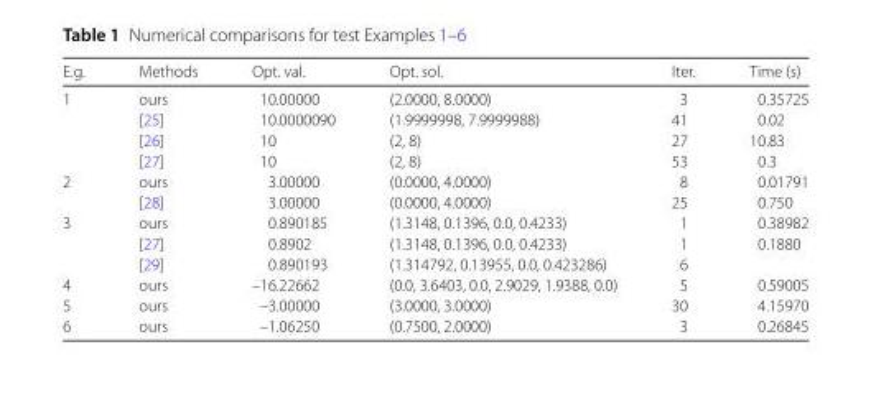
<table><thead><tr><td>E.g.</td><td>Methods</td><td>Opt. val.</td><td>Opt. sol.</td><td>Iter.</td><td>Time (s)</td></tr></thead><tbody><tr><td rowspan="4">1</td><td>ours</td><td>10.00000</td><td>(2.0000, 8.0000)</td><td>3</td><td>0.35725</td></tr><tr><td>[25]</td><td>10.0000090</td><td>(1.9999998, 7.9999988)</td><td>41</td><td>0.02</td></tr><tr><td>[26]</td><td>10</td><td>(2, 8)</td><td>27</td><td>10.83</td></tr><tr><td>[27]</td><td>10</td><td>(2, 8)</td><td>53</td><td>0.3</td></tr><tr><td rowspan="2">2</td><td>ours</td><td>3.00000</td><td>(0.0000, 4.0000)</td><td>8</td><td>0.01791</td></tr><tr><td>[28]</td><td>3.00000</td><td>(0.0000, 4.0000)</td><td>25</td><td>0.750</td></tr><tr><td rowspan="3">3</td><td>ours</td><td>0.890185</td><td>(1.3148, 0.1396, 0.0, 0.4233)</td><td>1</td><td>0.38982</td></tr><tr><td>[27]</td><td>0.8902</td><td>(1.3148, 0.1396, 0.0, 0.4233)</td><td>1</td><td>0.1880</td></tr><tr><td>[29]</td><td>0.890193</td><td>(1.314792, 0.13955, 0.0, 0.423286)</td><td>6</td><td></td></tr><tr><td>4</td><td>ours</td><td>–16.22662</td><td>(0.0, 3.6403, 0.0, 2.9029, 1.9388, 0.0)</td><td>5</td><td>0.59005</td></tr><tr><td>5</td><td>ours</td><td>–3.00000</td><td>(3.0000, 3.0000)</td><td>30</td><td>4.15970</td></tr><tr><td>6</td><td>ours</td><td>–1.06250</td><td>(0.7500, 2.0000)</td><td>3</td><td>0.26845</td></tr></tbody></table>